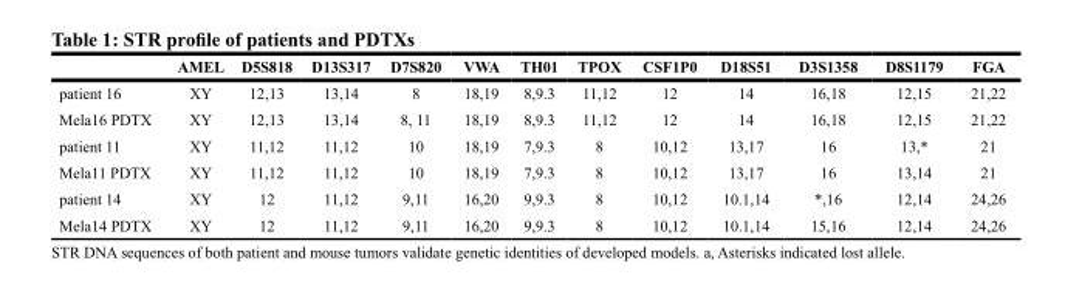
<table><thead><tr><td></td><td>AMEL</td><td>D5S818</td><td>D13S317</td><td>D7S820</td><td>VWA</td><td>TH01</td><td>TPOX</td><td>CSF1P0</td><td>D18S51</td><td>D3S1358</td><td>D8S1179</td><td>FGA</td></tr></thead><tbody><tr><td>patient 16</td><td>XY</td><td>12,13</td><td>13,14</td><td>8</td><td>18,19</td><td>8,9.3</td><td>11,12</td><td>12</td><td>14</td><td>16,18</td><td>12,15</td><td>21,22</td></tr><tr><td>Mela16 PDTX</td><td>XY</td><td>12,13</td><td>13,14</td><td>8, 11</td><td>18,19</td><td>8,9.3</td><td>11,12</td><td>12</td><td>14</td><td>16,18</td><td>12,15</td><td>21,22</td></tr><tr><td>patient 11</td><td>XY</td><td>11,12</td><td>11,12</td><td>10</td><td>18,19</td><td>7,9.3</td><td>8</td><td>10,12</td><td>13,17</td><td>16</td><td>13,*</td><td>21</td></tr><tr><td>Mela11 PDTX</td><td>XY</td><td>11,12</td><td>11,12</td><td>10</td><td>18,19</td><td>7,9.3</td><td>8</td><td>10,12</td><td>13,17</td><td>16</td><td>13,14</td><td>21</td></tr><tr><td>patient 14</td><td>XY</td><td>12</td><td>11,12</td><td>9,11</td><td>16,20</td><td>9,9.3</td><td>8</td><td>10,12</td><td>10.1,14</td><td>*,16</td><td>12,14</td><td>24,26</td></tr><tr><td>Mela14 PDTX</td><td>XY</td><td>12</td><td>11,12</td><td>9,11</td><td>16,20</td><td>9,9.3</td><td>8</td><td>10,12</td><td>10.1,14</td><td>15,16</td><td>12,14</td><td>24,26</td></tr></tbody></table>